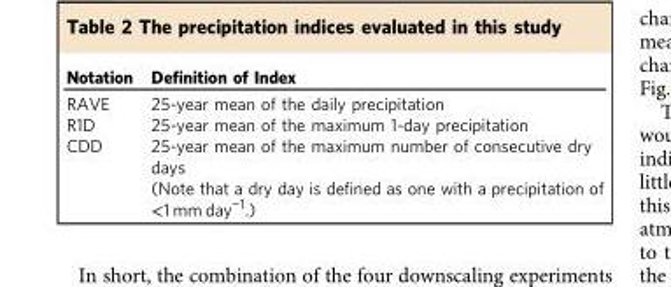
<table><thead><tr><td>Notation</td><td>Definition of Index</td></tr></thead><tbody><tr><td>RAVE</td><td>25-year mean of the daily precipitation</td></tr><tr><td>R1D</td><td>25-year mean of the maximum 1-day precipitation</td></tr><tr><td rowspan="2">CDD</td><td>25-year mean of the maximum number of consecutive dry days</td></tr><tr><td>(Note that a dry day is defined as one with a precipitation of &lt;1 mm day<sup>−1</sup>.)</td></tr></tbody></table>